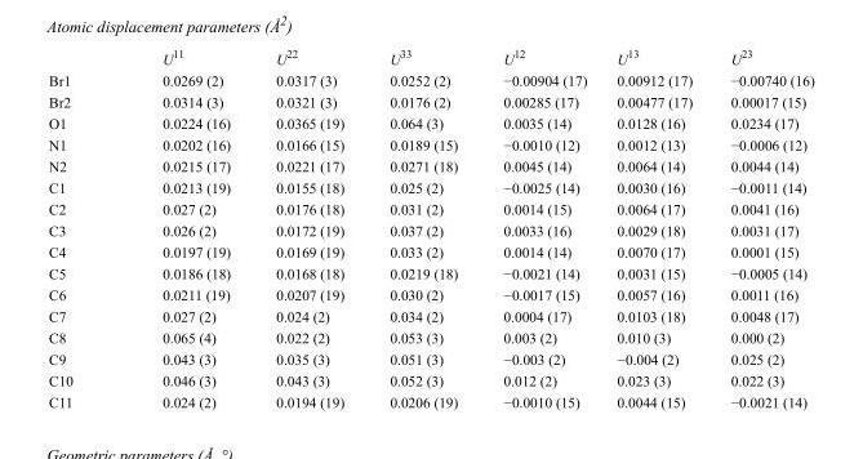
<table><thead><tr><td></td><td>U<sup>11</sup></td><td>U<sup>22</sup></td><td>U<sup>33</sup></td><td>U<sup>12</sup></td><td>U<sup>13</sup></td><td>U<sup>23</sup></td></tr></thead><tbody><tr><td>Br1</td><td>0.0269 (2)</td><td>0.0317 (3)</td><td>0.0252 (2)</td><td>−0.00904 (17)</td><td>0.00912 (17)</td><td>−0.00740 (16)</td></tr><tr><td>Br2</td><td>0.0314 (3)</td><td>0.0321 (3)</td><td>0.0176 (2)</td><td>0.00285 (17)</td><td>0.00477 (17)</td><td>0.00017 (15)</td></tr><tr><td>O1</td><td>0.0224 (16)</td><td>0.0365 (19)</td><td>0.064 (3)</td><td>0.0035 (14)</td><td>0.0128 (16)</td><td>0.0234 (17)</td></tr><tr><td>N1</td><td>0.0202 (16)</td><td>0.0166 (15)</td><td>0.0189 (15)</td><td>−0.0010 (12)</td><td>0.0012 (13)</td><td>−0.0006 (12)</td></tr><tr><td>N2</td><td>0.0215 (17)</td><td>0.0221 (17)</td><td>0.0271 (18)</td><td>0.0045 (14)</td><td>0.0064 (14)</td><td>0.0044 (14)</td></tr><tr><td>C1</td><td>0.0213 (19)</td><td>0.0155 (18)</td><td>0.025 (2)</td><td>−0.0025 (14)</td><td>0.0030 (16)</td><td>−0.0011 (14)</td></tr><tr><td>C2</td><td>0.027 (2)</td><td>0.0176 (18)</td><td>0.031 (2)</td><td>0.0014 (15)</td><td>0.0064 (17)</td><td>0.0041 (16)</td></tr><tr><td>C3</td><td>0.026 (2)</td><td>0.0172 (19)</td><td>0.037 (2)</td><td>0.0033 (16)</td><td>0.0029 (18)</td><td>0.0031 (17)</td></tr><tr><td>C4</td><td>0.0197 (19)</td><td>0.0169 (19)</td><td>0.033 (2)</td><td>0.0014 (14)</td><td>0.0070 (17)</td><td>0.0001 (15)</td></tr><tr><td>C5</td><td>0.0186 (18)</td><td>0.0168 (18)</td><td>0.0219 (18)</td><td>−0.0021 (14)</td><td>0.0031 (15)</td><td>−0.0005 (14)</td></tr><tr><td>C6</td><td>0.0211 (19)</td><td>0.0207 (19)</td><td>0.030 (2)</td><td>−0.0017 (15)</td><td>0.0057 (16)</td><td>0.0011 (16)</td></tr><tr><td>C7</td><td>0.027 (2)</td><td>0.024 (2)</td><td>0.034 (2)</td><td>0.0004 (17)</td><td>0.0103 (18)</td><td>0.0048 (17)</td></tr><tr><td>C8</td><td>0.065 (4)</td><td>0.022 (2)</td><td>0.053 (3)</td><td>0.003 (2)</td><td>0.010 (3)</td><td>0.000 (2)</td></tr><tr><td>C9</td><td>0.043 (3)</td><td>0.035 (3)</td><td>0.051 (3)</td><td>−0.003 (2)</td><td>−0.004 (2)</td><td>0.025 (2)</td></tr><tr><td>C10</td><td>0.046 (3)</td><td>0.043 (3)</td><td>0.052 (3)</td><td>0.012 (2)</td><td>0.023 (3)</td><td>0.022 (3)</td></tr><tr><td>C11</td><td>0.024 (2)</td><td>0.0194 (19)</td><td>0.0206 (19)</td><td>−0.0010 (15)</td><td>0.0044 (15)</td><td>−0.0021 (14)</td></tr></tbody></table>